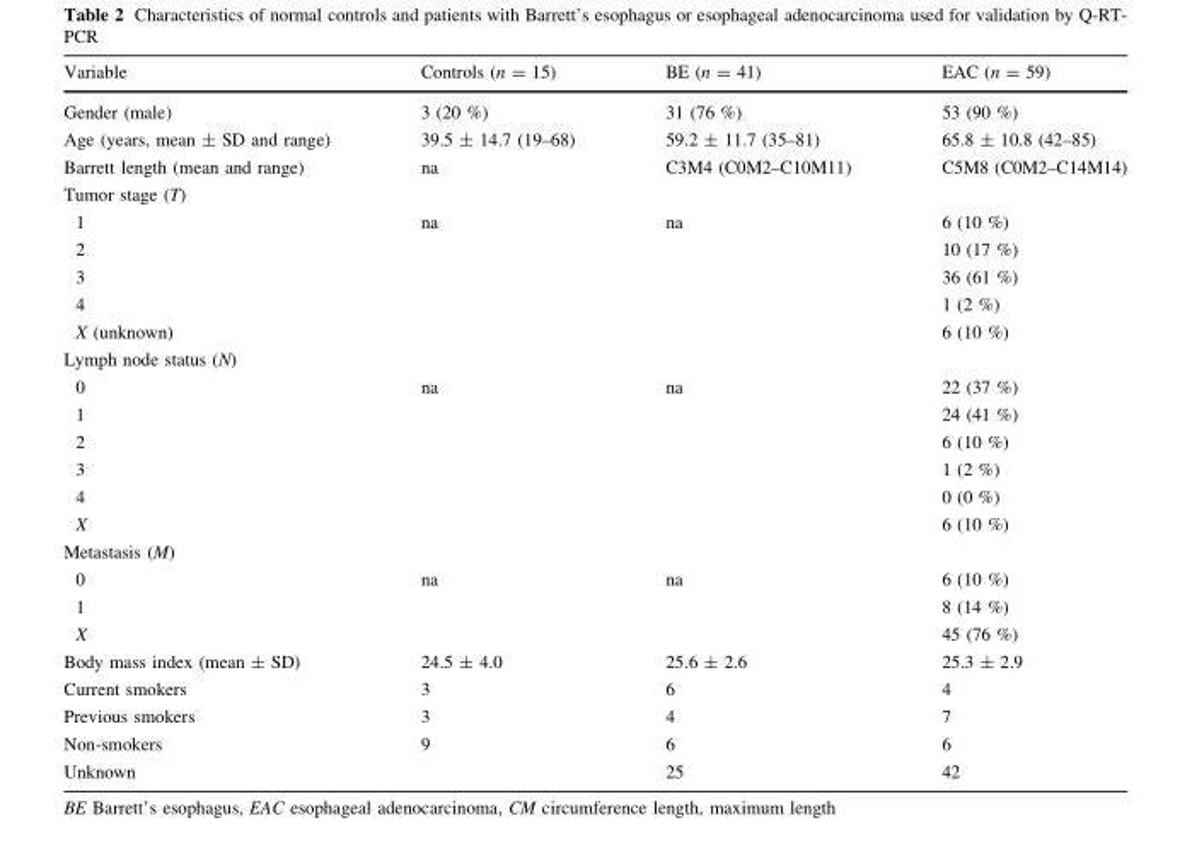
<table><thead><tr><td>Variable</td><td>Controls (n = 15)</td><td>BE (n = 41)</td><td>EAC (n = 59)</td></tr></thead><tbody><tr><td>Gender (male)</td><td>3 (20 %)</td><td>31 (76 %)</td><td>53 (90 %)</td></tr><tr><td>Age (years, mean ± SD and range)</td><td>39.5 ± 14.7 (19–68)</td><td>59.2 ± 11.7 (35–81)</td><td>65.8 ± 10.8 (42–85)</td></tr><tr><td>Barrett length (mean and range)</td><td>na</td><td>C3M4 (C0M2–C10M11)</td><td>C5M8 (C0M2–C14M14)</td></tr><tr><td colspan="4">Tumor stage (T)</td></tr><tr><td>1</td><td>na</td><td>na</td><td>6 (10 %)</td></tr><tr><td>2</td><td></td><td></td><td>10 (17 %)</td></tr><tr><td>3</td><td></td><td></td><td>36 (61 %)</td></tr><tr><td>4</td><td></td><td></td><td>1 (2 %)</td></tr><tr><td>X (unknown)</td><td></td><td></td><td>6 (10 %)</td></tr><tr><td colspan="4">Lymph node status (N)</td></tr><tr><td>0</td><td>na</td><td>na</td><td>22 (37 %)</td></tr><tr><td>1</td><td></td><td></td><td>24 (41 %)</td></tr><tr><td>2</td><td></td><td></td><td>6 (10 %)</td></tr><tr><td>3</td><td></td><td></td><td>1 (2 %)</td></tr><tr><td>4</td><td></td><td></td><td>0 (0 %)</td></tr><tr><td>X</td><td></td><td></td><td>6 (10 %)</td></tr><tr><td colspan="4">Metastasis (M)</td></tr><tr><td>0</td><td>na</td><td>na</td><td>6 (10 %)</td></tr><tr><td>1</td><td></td><td></td><td>8 (14 %)</td></tr><tr><td>X</td><td></td><td></td><td>45 (76 %)</td></tr><tr><td>Body mass index (mean ± SD)</td><td>24.5 ± 4.0</td><td>25.6 ± 2.6</td><td>25.3 ± 2.9</td></tr><tr><td>Current smokers</td><td>3</td><td>6</td><td>4</td></tr><tr><td>Previous smokers</td><td>3</td><td>4</td><td>7</td></tr><tr><td>Non-smokers</td><td>9</td><td>6</td><td>6</td></tr><tr><td>Unknown</td><td></td><td>25</td><td>42</td></tr></tbody></table>